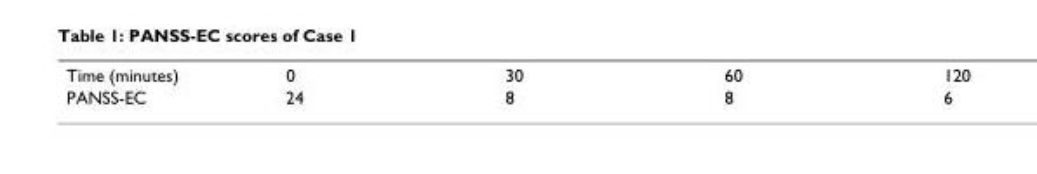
<table><tbody><tr><td>Time (minutes)</td><td>0</td><td>30</td><td>60</td><td>120</td></tr><tr><td>PANSS-EC</td><td>24</td><td>8</td><td>8</td><td>6</td></tr></tbody></table>